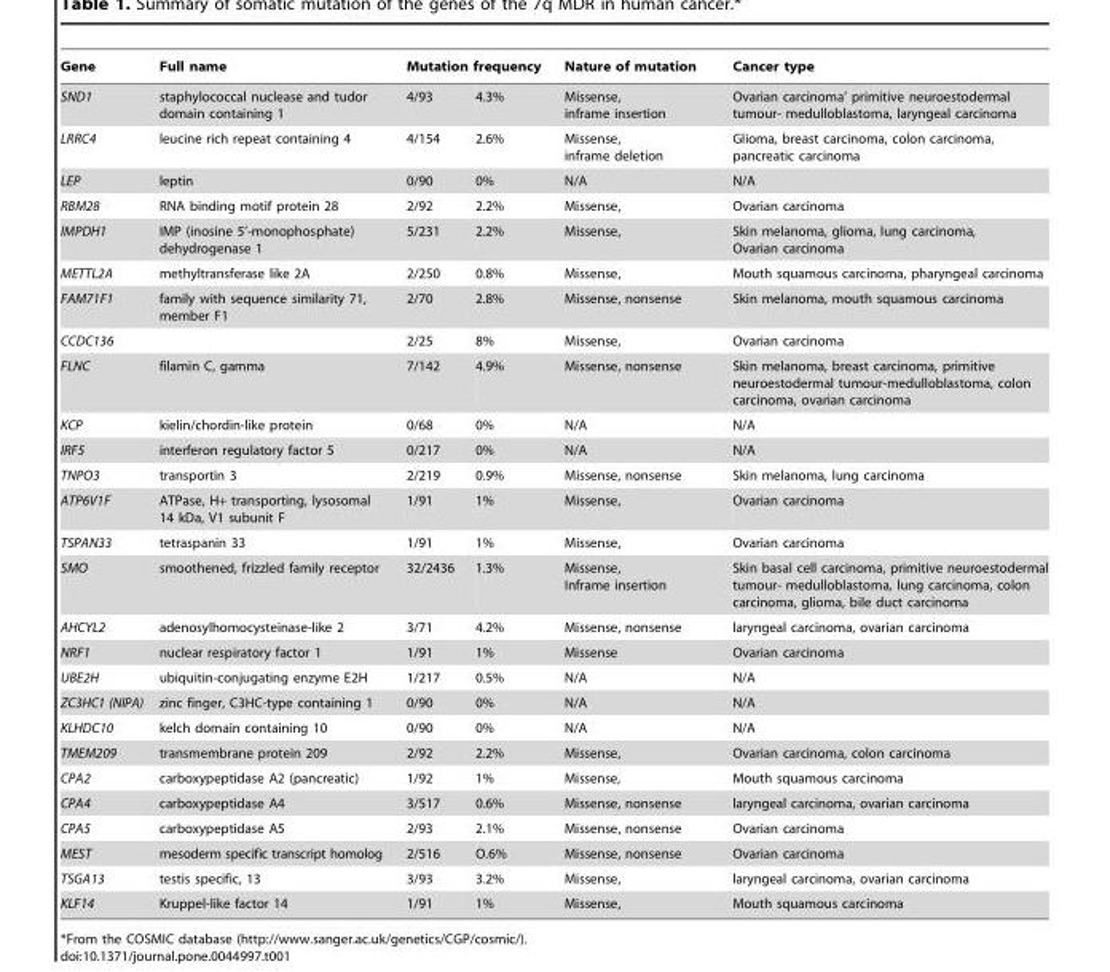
<table><thead><tr><td rowspan="2">Gene SND1</td><td rowspan="2">Full name staphylococcal nuclease and tudor domain containing 1</td><td colspan="2">Mutation frequency</td><td rowspan="2">Nature of mutation Missense, inframe insertion</td><td rowspan="2">Cancer type Ovarian carcinoma’ primitive neuroestodermal tumour- medulloblastoma, laryngeal carcinoma</td></tr><tr><td>4/93</td><td>4.3%</td></tr></thead><tbody><tr><td>LRRC4</td><td>leucine rich repeat containing 4</td><td>4/154</td><td>2.6%</td><td>Missense, inframe deletion</td><td>Glioma, breast carcinoma, colon carcinoma, pancreatic carcinoma</td></tr><tr><td>LEP</td><td>leptin</td><td>0/90</td><td>0%</td><td>N/A</td><td>N/A</td></tr><tr><td>RBM28</td><td>RNA binding motif protein 28</td><td>2/92</td><td>2.2%</td><td>Missense,</td><td>Ovarian carcinoma</td></tr><tr><td>IMPDH1</td><td>IMP (inosine 5’-monophosphate) dehydrogenase 1</td><td>5/231</td><td>2.2%</td><td>Missense,</td><td>Skin melanoma, glioma, lung carcinoma, Ovarian carcinoma</td></tr><tr><td>METTL2A</td><td>methyltransferase like 2A</td><td>2/250</td><td>0.8%</td><td>Missense,</td><td>Mouth squamous carcinoma, pharyngeal carcinoma</td></tr><tr><td>FAM71F1</td><td>family with sequence similarity 71, member F1</td><td>2/70</td><td>2.8%</td><td>Missense, nonsense</td><td>Skin melanoma, mouth squamous carcinoma</td></tr><tr><td>CCDC136</td><td></td><td>2/25</td><td>8%</td><td>Missense,</td><td>Ovarian carcinoma</td></tr><tr><td>FLNC</td><td>filamin C, gamma</td><td>7/142</td><td>4.9%</td><td>Missense, nonsense</td><td>Skin melanoma, breast carcinoma, primitive neuroestodermal tumour-medulloblastoma, colon carcinoma, ovarian carcinoma</td></tr><tr><td>KCP</td><td>kielin/chordin-like protein</td><td>0/68</td><td>0%</td><td>N/A</td><td>N/A</td></tr><tr><td>IRF5</td><td>interferon regulatory factor 5</td><td>0/217</td><td>0%</td><td>N/A</td><td>N/A</td></tr><tr><td>TNPO3</td><td>transportin 3</td><td>2/219</td><td>0.9%</td><td>Missense, nonsense</td><td>Skin melanoma, lung carcinoma</td></tr><tr><td>ATP6V1F</td><td>ATPase, H+ transporting, lysosomal 14 kDa, V1 subunit F</td><td>1/91</td><td>1%</td><td>Missense,</td><td>Ovarian carcinoma</td></tr><tr><td>TSPAN33</td><td>tetraspanin 33</td><td>1/91</td><td>1%</td><td>Missense,</td><td>Ovarian carcinoma</td></tr><tr><td>SMO</td><td>smoothened, frizzled family receptor</td><td>32/2436</td><td>1.3%</td><td>Missense, Inframe insertion</td><td>Skin basal cell carcinoma, primitive neuroestodermal tumour- medulloblastoma, lung carcinoma, colon carcinoma, glioma, bile duct carcinoma</td></tr><tr><td>AHCYL2</td><td>adenosylhomocysteinase-like 2</td><td>3/71</td><td>4.2%</td><td>Missense, nonsense</td><td>laryngeal carcinoma, ovarian carcinoma</td></tr><tr><td>NRF1</td><td>nuclear respiratory factor 1</td><td>1/91</td><td>1%</td><td>Missense</td><td>Ovarian carcinoma</td></tr><tr><td>UBE2H</td><td>ubiquitin-conjugating enzyme E2H</td><td>1/217</td><td>0.5%</td><td>N/A</td><td>N/A</td></tr><tr><td>ZC3HC1 (NIPA)</td><td>zinc finger, C3HC-type containing 1</td><td>0/90</td><td>0%</td><td>N/A</td><td>N/A</td></tr><tr><td>KLHDC10</td><td>kelch domain containing 10</td><td>0/90</td><td>0%</td><td>N/A</td><td>N/A</td></tr><tr><td>TMEM209</td><td>transmembrane protein 209</td><td>2/92</td><td>2.2%</td><td>Missense,</td><td>Ovarian carcinoma, colon carcinoma</td></tr><tr><td>CPA2</td><td>carboxypeptidase A2 (pancreatic)</td><td>1/92</td><td>1%</td><td>Missense,</td><td>Mouth squamous carcinoma</td></tr><tr><td>CPA4</td><td>carboxypeptidase A4</td><td>3/517</td><td>0.6%</td><td>Missense, nonsense</td><td>laryngeal carcinoma, ovarian carcinoma</td></tr><tr><td>CPA5</td><td>carboxypeptidase A5</td><td>2/93</td><td>2.1%</td><td>Missense, nonsense</td><td>Ovarian carcinoma</td></tr><tr><td>MEST</td><td>mesoderm specific transcript homolog</td><td>2/516</td><td>O.6%</td><td>Missense, nonsense</td><td>Ovarian carcinoma</td></tr><tr><td>TSGA13</td><td>testis specific, 13</td><td>3/93</td><td>3.2%</td><td>Missense,</td><td>laryngeal carcinoma, ovarian carcinoma</td></tr><tr><td>KLF14</td><td>Kruppel-like factor 14</td><td>1/91</td><td>1%</td><td>Missense,</td><td>Mouth squamous carcinoma</td></tr></tbody></table>